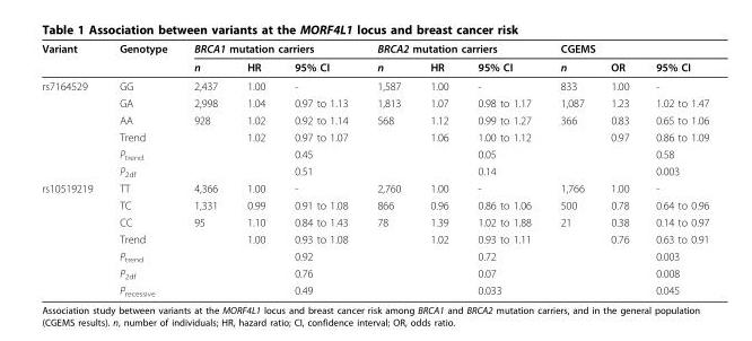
<table><thead><tr><td rowspan="2">Variant</td><td rowspan="2">Genotype</td><td colspan="3">BRCA1 mutation carriers</td><td colspan="3">BRCA2 mutation carriers</td><td colspan="3">CGEMS</td></tr><tr><td>n</td><td>HR</td><td>95% CI</td><td>n</td><td>HR</td><td>95% CI</td><td>n</td><td>OR</td><td>95% CI</td></tr></thead><tbody><tr><td rowspan="6">rs7164529</td><td>GG</td><td>2,437</td><td>1.00</td><td>-</td><td>1,587</td><td>1.00</td><td>-</td><td>833</td><td>1.00</td><td>-</td></tr><tr><td>GA</td><td>2,998</td><td>1.04</td><td>0.97 to 1.13</td><td>1,813</td><td>1.07</td><td>0.98 to 1.17</td><td>1,087</td><td>1.23</td><td>1.02 to 1.47</td></tr><tr><td>AA</td><td>928</td><td>1.02</td><td>0.92 to 1.14</td><td>568</td><td>1.12</td><td>0.99 to 1.27</td><td>366</td><td>0.83</td><td>0.65 to 1.06</td></tr><tr><td>Trend</td><td></td><td>1.02</td><td>0.97 to 1.07</td><td></td><td>1.06</td><td>1.00 to 1.12</td><td></td><td>0.97</td><td>0.86 to 1.09</td></tr><tr><td>P<sub>trend</sub></td><td></td><td></td><td>0.45</td><td></td><td></td><td>0.05</td><td></td><td></td><td>0.58</td></tr><tr><td>P<sub>2df</sub></td><td></td><td></td><td>0.51</td><td></td><td></td><td>0.14</td><td></td><td></td><td>0.003</td></tr><tr><td rowspan="7">rs10519219</td><td>TT</td><td>4,366</td><td>1.00</td><td>-</td><td>2,760</td><td>1.00</td><td>-</td><td>1,766</td><td>1.00</td><td>-</td></tr><tr><td>TC</td><td>1,331</td><td>0.99</td><td>0.91 to 1.08</td><td>866</td><td>0.96</td><td>0.86 to 1.06</td><td>500</td><td>0.78</td><td>0.64 to 0.96</td></tr><tr><td>CC</td><td>95</td><td>1.10</td><td>0.84 to 1.43</td><td>78</td><td>1.39</td><td>1.02 to 1.88</td><td>21</td><td>0.38</td><td>0.14 to 0.97</td></tr><tr><td>Trend</td><td></td><td>1.00</td><td>0.93 to 1.08</td><td></td><td>1.02</td><td>0.93 to 1.11</td><td></td><td>0.76</td><td>0.63 to 0.91</td></tr><tr><td>P<sub>trend</sub></td><td></td><td></td><td>0.92</td><td></td><td></td><td>0.72</td><td></td><td></td><td>0.003</td></tr><tr><td>P<sub>2df</sub></td><td></td><td></td><td>0.76</td><td></td><td></td><td>0.07</td><td></td><td></td><td>0.008</td></tr><tr><td>P<sub>recessive</sub></td><td></td><td></td><td>0.49</td><td></td><td></td><td>0.033</td><td></td><td></td><td>0.045</td></tr></tbody></table>